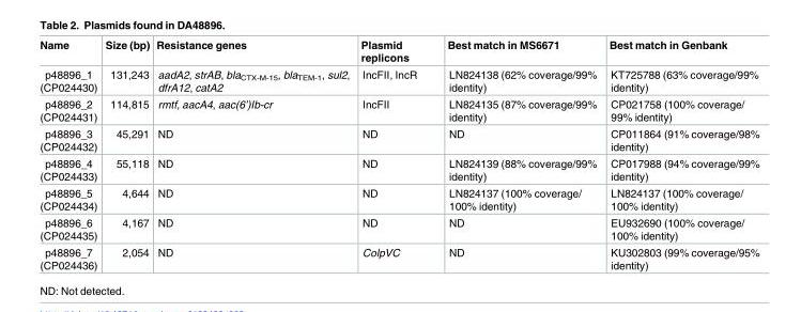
<table><thead><tr><td>Name</td><td>Size (bp)</td><td>Resistance genes</td><td>Plasmid replicons</td><td>Best match in MS6671</td><td>Best match in Genbank</td></tr></thead><tbody><tr><td>p48896_1 (CP024430)</td><td>131,243</td><td>aadA2, strAB, bla<sub>CTX-M-15</sub>, bla<sub>TEM-1</sub>, sul2, dfrA12, catA2</td><td>IncFII, IncR</td><td>LN824138 (62% coverage/99% identity)</td><td>KT725788 (63% coverage/99% identity)</td></tr><tr><td>p48896_2 (CP024431)</td><td>114,815</td><td>rmtf, aacA4, aac(6’)Ib-cr</td><td>IncFII</td><td>LN824135 (87% coverage/99% identity)</td><td>CP021758 (100% coverage/ 99% identity)</td></tr><tr><td>p48896_3 (CP024432)</td><td>45,291</td><td>ND</td><td>ND</td><td>ND</td><td>CP011864 (91% coverage/98% identity)</td></tr><tr><td>p48896_4 (CP024433)</td><td>55,118</td><td>ND</td><td>ND</td><td>LN824139 (88% coverage/99% identity)</td><td>CP017988 (94% coverage/99% identity)</td></tr><tr><td>p48896_5 (CP024434)</td><td>4,644</td><td>ND</td><td>ND</td><td>LN824137 (100% coverage/ 100% identity)</td><td>LN824137 (100% coverage/ 100% identity)</td></tr><tr><td>p48896_6 (CP024435)</td><td>4,167</td><td>ND</td><td>ND</td><td>ND</td><td>EU932690 (100% coverage/ 100% identity)</td></tr><tr><td>p48896_7 (CP024436)</td><td>2,054</td><td>ND</td><td>ColpVC</td><td>ND</td><td>KU302803 (99% coverage/95% identity)</td></tr></tbody></table>